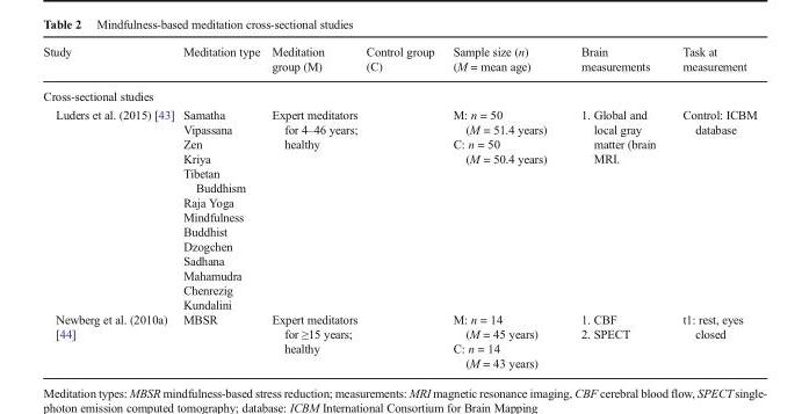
<table><thead><tr><td>Study</td><td>Meditation type</td><td>Meditation group (M)</td><td>Control group (C)</td><td>Sample size (n) (M = mean age)</td><td>Brain measurements</td><td>Task at measurement</td></tr></thead><tbody><tr><td colspan="7">Cross-sectional studies</td></tr><tr><td>Luders et al. (2015) [43]</td><td>Samatha Vipassana Zen Kriya Tibetan Buddhism Raja Yoga Mindfulness Buddhist Dzogchen Sadhana Mahamudra Chenrezig Kundalini</td><td>Expert meditators for 4–46 years; healthy</td><td></td><td>M: n = 50 (M = 51.4 years) C: n = 50 (M = 50.4 years)</td><td>1. Global and local gray matter (brain MRI.</td><td>Control: ICBM database</td></tr><tr><td>Newberg et al. (2010a) [44]</td><td>MBSR</td><td>Expert meditators for ≥15 years; healthy</td><td></td><td>M: n = 14 (M = 45 years) C: n = 14 (M = 43 years)</td><td>1. CBF 2. SPECT</td><td>t1: rest, eyes closed</td></tr></tbody></table>